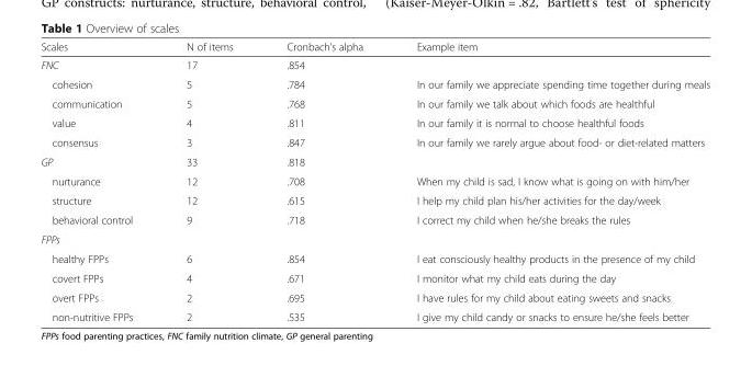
<table><thead><tr><td>Scales</td><td>N of items</td><td>Cronbach’s alpha</td><td>Example item</td></tr></thead><tbody><tr><td>FNC</td><td>17</td><td>.854</td><td></td></tr><tr><td>cohesion</td><td>5</td><td>.784</td><td>In our family we appreciate spending time together during meals</td></tr><tr><td>communication</td><td>5</td><td>.768</td><td>In our family we talk about which foods are healthful</td></tr><tr><td>value</td><td>4</td><td>.811</td><td>In our family it is normal to choose healthful foods</td></tr><tr><td>consensus</td><td>3</td><td>.847</td><td>In our family we rarely argue about food- or diet-related matters</td></tr><tr><td>GP</td><td>33</td><td>.818</td><td></td></tr><tr><td>nurturance</td><td>12</td><td>.708</td><td>When my child is sad, I know what is going on with him/her</td></tr><tr><td>structure</td><td>12</td><td>.615</td><td>I help my child plan his/her activities for the day/week</td></tr><tr><td>behavioral control</td><td>9</td><td>.718</td><td>I correct my child when he/she breaks the rules</td></tr><tr><td colspan="4">FPPs</td></tr><tr><td>healthy FPPs</td><td>6</td><td>.854</td><td>I eat consciously healthy products in the presence of my child</td></tr><tr><td>covert FPPs</td><td>4</td><td>.671</td><td>I monitor what my child eats during the day</td></tr><tr><td>overt FPPs</td><td>2</td><td>.695</td><td>I have rules for my child about eating sweets and snacks</td></tr><tr><td>non-nutritive FPPs</td><td>2</td><td>.535</td><td>I give my child candy or snacks to ensure he/she feels better</td></tr></tbody></table>